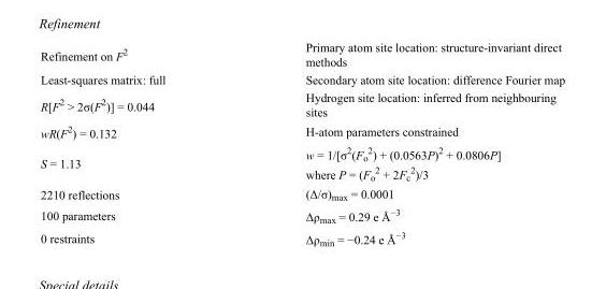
<table><tbody><tr><td>Refinement on F<sup>2</sup></td><td>Primary atom site location: structure-invariant direct methods</td></tr><tr><td>Least-squares matrix: full</td><td>Secondary atom site location: difference Fourier map</td></tr><tr><td>R[F<sup>2</sup> &gt; 2σ(F<sup>2</sup>)] = 0.044</td><td>Hydrogen site location: inferred from neighbouring sites</td></tr><tr><td>wR(F<sup>2</sup>) = 0.132</td><td>H-atom parameters constrained</td></tr><tr><td>S = 1.13</td><td>w = 1/[σ<sup>2</sup>(F<sub>o</sub> <sup>2</sup>) + (0.0563P)<sup>2</sup> + 0.0806P] where P = (F<sub>o</sub> <sup>2</sup> + 2F<sub>c</sub> <sup>2</sup>)/3</td></tr><tr><td>2210 reflections</td><td>(Δ/σ)<sub>max</sub> = 0.0001</td></tr><tr><td>100 parameters</td><td>Δρ<sub>max</sub> = 0.29 e Å<sup>−3</sup></td></tr><tr><td>0 restraints</td><td>Δρ<sub>min</sub> = −0.24 e Å<sup>−3</sup></td></tr></tbody></table>